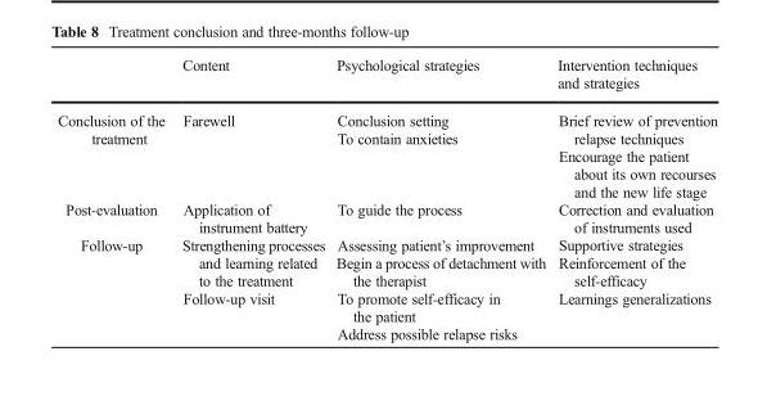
<table><thead><tr><td></td><td>Content</td><td>Psychological strategies</td><td>Intervention techniques and strategies</td></tr></thead><tbody><tr><td>Conclusion of the treatment</td><td>Farewell</td><td>Conclusion setting To contain anxieties</td><td>Brief review of prevention relapse techniques Encourage the patient about its own recourses and the new life stage</td></tr><tr><td>Post-evaluation</td><td>Application of instrument battery</td><td>To guide the process</td><td>Correction and evaluation of instruments used</td></tr><tr><td>Follow-up</td><td>Strengthening processes and learning related to the treatment Follow-up visit</td><td>Assessing patient’s improvement Begin a process of detachment with the therapist To promote self-efficacy in the patient Address possible relapse risks</td><td>Supportive strategies Reinforcement of the self-efficacy Learnings generalizations</td></tr></tbody></table>